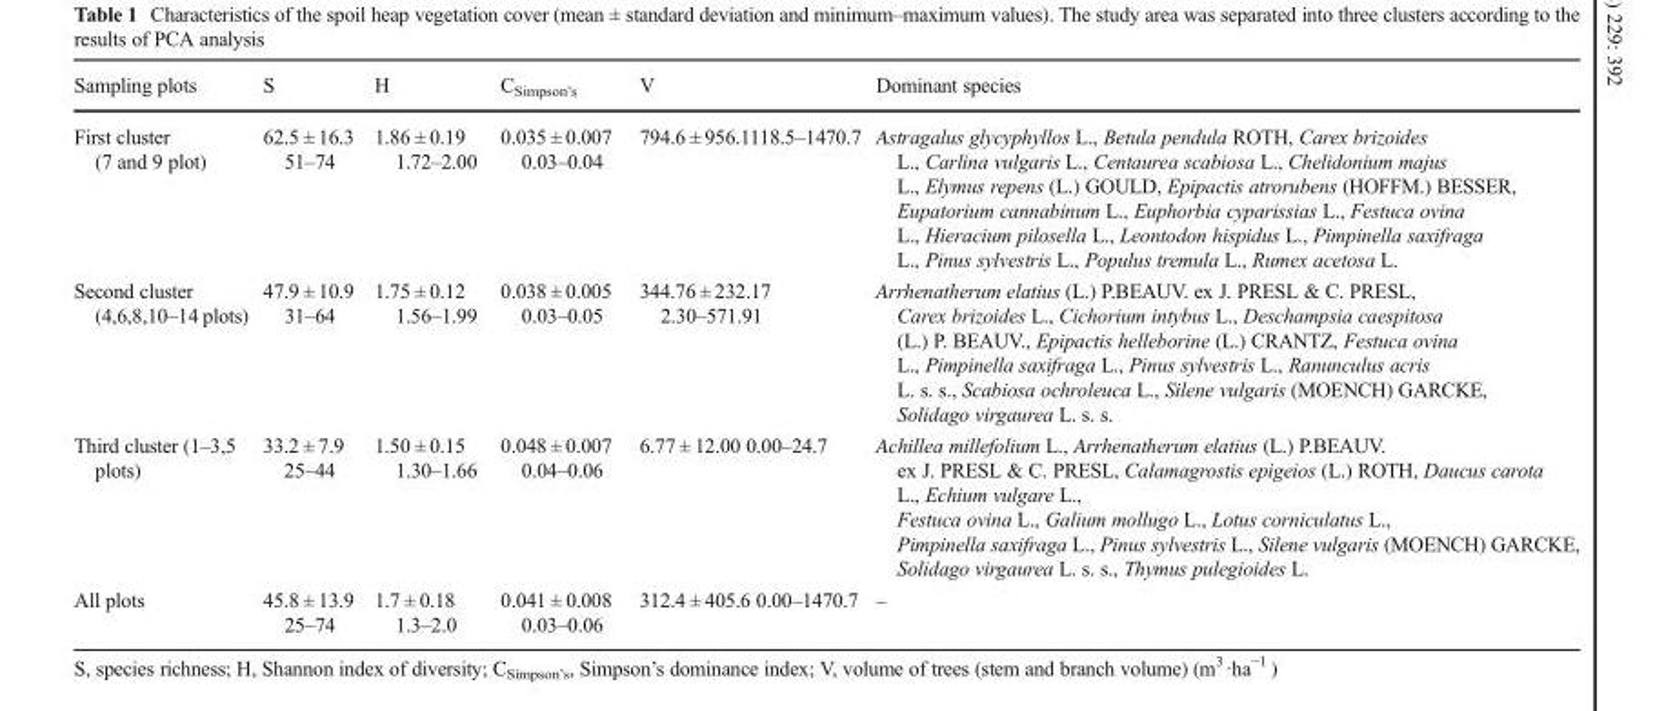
<table><thead><tr><td>Sampling plots</td><td>S</td><td>H</td><td>C<sub>Simpson’s</sub></td><td>V</td><td>Dominant species</td></tr></thead><tbody><tr><td>First cluster (7 and 9 plot)</td><td>62.5 ± 16.3 51–74</td><td>1.86 ± 0.19 1.72–2.00</td><td>0.035 ± 0.007 0.03–0.04</td><td>794.6 ± 956.1118.5–1470.7</td><td>Astragalus glycyphyllos L., Betula pendula ROTH, Carex brizoides L., Carlina vulgaris L., Centaurea scabiosa L., Chelidonium majus L., Elymus repens (L.) GOULD, Epipactis atrorubens (HOFFM.) BESSER, Eupatorium cannabinum L., Euphorbia cyparissias L., Festuca ovina L., Hieracium pilosella L., Leontodon hispidus L., Pimpinella saxifraga L., Pinus sylvestris L., Populus tremula L., Rumex acetosa L.</td></tr><tr><td>Second cluster (4,6,8,10–14 plots)</td><td>47.9 ± 10.9 31–64</td><td>1.75 ± 0.12 1.56–1.99</td><td>0.038 ± 0.005 0.03–0.05</td><td>344.76 ± 232.17 2.30–571.91</td><td>Arrhenatherum elatius (L.) P.BEAUV. ex J. PRESL &amp; C. PRESL, Carex brizoides L., Cichorium intybus L., Deschampsia caespitosa (L.) P. BEAUV., Epipactis helleborine (L.) CRANTZ, Festuca ovina L., Pimpinella saxifraga L., Pinus sylvestris L., Ranunculus acris L. s. s., Scabiosa ochroleuca L., Silene vulgaris (MOENCH) GARCKE, Solidago virgaurea L. s. s.</td></tr><tr><td>Third cluster (1–3,5 plots)</td><td>33.2 ± 7.9 25–44</td><td>1.50 ± 0.15 1.30–1.66</td><td>0.048 ± 0.007 0.04–0.06</td><td>6.77 ± 12.00 0.00–24.7</td><td>Achillea millefolium L., Arrhenatherum elatius (L.) P.BEAUV. ex J. PRESL &amp; C. PRESL, Calamagrostis epigeios (L.) ROTH, Daucus carota L., Echium vulgare L., Festuca ovina L., Galium mollugo L., Lotus corniculatus L., Pimpinella saxifraga L., Pinus sylvestris L., Silene vulgaris (MOENCH) GARCKE, Solidago virgaurea L. s. s., Thymus pulegioides L.</td></tr><tr><td>All plots</td><td>45.8 ± 13.9 25–74</td><td>1.7 ± 0.18 1.3–2.0</td><td>0.041 ± 0.008 0.03–0.06</td><td>312.4 ± 405.6 0.00–1470.7</td><td>–</td></tr></tbody></table>